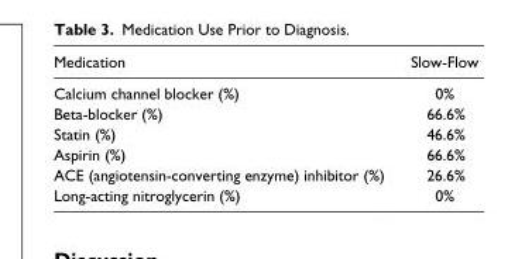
<table><thead><tr><td>Medication</td><td>Slow-Flow</td></tr></thead><tbody><tr><td>Calcium channel blocker (%)</td><td>0%</td></tr><tr><td>Beta-blocker (%)</td><td>66.6%</td></tr><tr><td>Statin (%)</td><td>46.6%</td></tr><tr><td>Aspirin (%)</td><td>66.6%</td></tr><tr><td>ACE (angiotensin-converting enzyme) inhibitor (%)</td><td>26.6%</td></tr><tr><td>Long-acting nitroglycerin (%)</td><td>0%</td></tr></tbody></table>